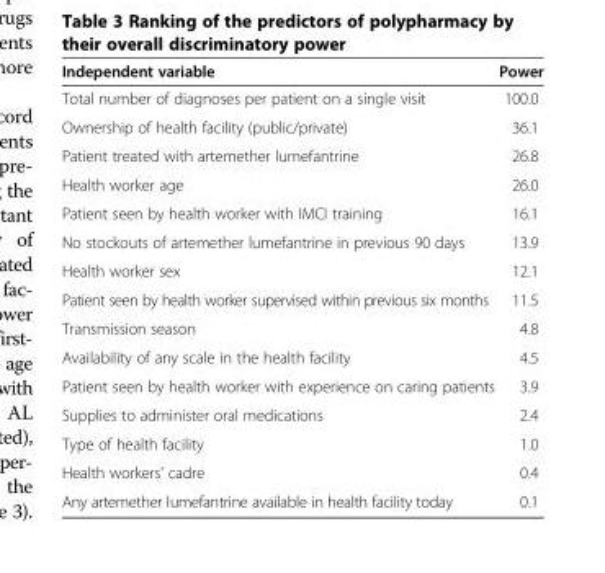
<table><thead><tr><td>Independent variable</td><td>Power</td></tr></thead><tbody><tr><td>Total number of diagnoses per patient on a single visit</td><td>100.0</td></tr><tr><td>Ownership of health facility (public/private)</td><td>36.1</td></tr><tr><td>Patient treated with artemether lumefantrine</td><td>26.8</td></tr><tr><td>Health worker age</td><td>26.0</td></tr><tr><td>Patient seen by health worker with IMCI training</td><td>16.1</td></tr><tr><td>No stockouts of artemether lumefantrine in previous 90 days</td><td>13.9</td></tr><tr><td>Health worker sex</td><td>12.1</td></tr><tr><td>Patient seen by health worker supervised within previous six months</td><td>11.5</td></tr><tr><td>Transmission season</td><td>4.8</td></tr><tr><td>Availability of any scale in the health facility</td><td>4.5</td></tr><tr><td>Patient seen by health worker with experience on caring patients</td><td>3.9</td></tr><tr><td>Supplies to administer oral medications</td><td>2.4</td></tr><tr><td>Type of health facility</td><td>1.0</td></tr><tr><td>Health workers&#x27; cadre</td><td>0.4</td></tr><tr><td>Any artemether lumefantrine available in health facility today</td><td>0.1</td></tr></tbody></table>